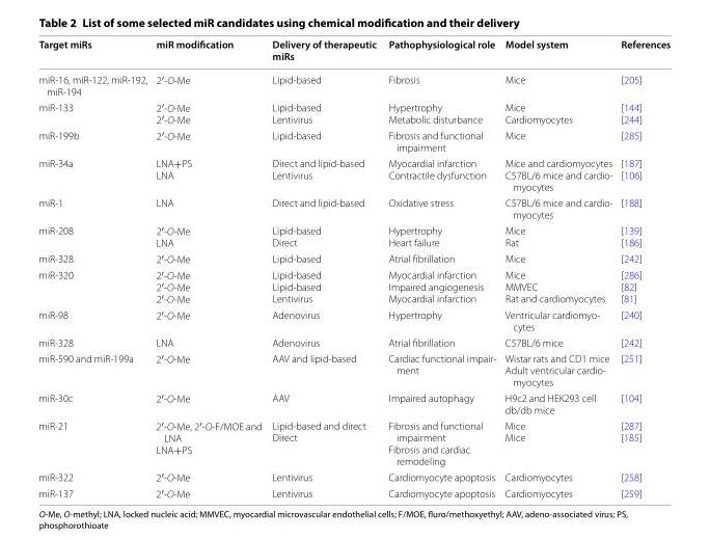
<table><thead><tr><td>Target miRs</td><td>miR modification</td><td>Delivery of therapeutic miRs</td><td>Pathophysiological role</td><td>Model system</td><td>References</td></tr></thead><tbody><tr><td>miR-16, miR-122, miR-192, miR-194</td><td>2′-O-Me</td><td>Lipid-based</td><td>Fibrosis</td><td>Mice</td><td>[205]</td></tr><tr><td>miR-133</td><td>2′-O-Me 2′-O-Me</td><td>Lipid-based Lentivirus</td><td>Hypertrophy Metabolic disturbance</td><td>Mice Cardiomyocytes</td><td>[144] [244]</td></tr><tr><td>miR-199b</td><td>2′-O-Me</td><td>Lipid-based</td><td>Fibrosis and functional impairment</td><td>Mice</td><td>[285]</td></tr><tr><td>miR-34a</td><td>LNA+PS LNA</td><td>Direct and lipid-based Lentivirus</td><td>Myocardial infarction Contractile dysfunction</td><td>Mice and cardiomyocytes C57BL/6 mice and cardio- myocytes</td><td>[187] [106]</td></tr><tr><td>miR-1</td><td>LNA</td><td>Direct and lipid-based</td><td>Oxidative stress</td><td>C57BL/6 mice and cardio- myocytes</td><td>[188]</td></tr><tr><td>miR-208</td><td>2′-O-Me LNA</td><td>Lipid-based Direct</td><td>Hypertrophy Heart failure</td><td>Mice Rat</td><td>[139] [186]</td></tr><tr><td>miR-328</td><td>2′-O-Me</td><td>Lipid-based</td><td>Atrial fibrillation</td><td>Mice</td><td>[242]</td></tr><tr><td>miR-320</td><td>2′-O-Me 2′-O-Me 2′-O-Me</td><td>Lipid-based Lipid-based Lentivirus</td><td>Myocardial infarction Impaired angiogenesis Myocardial infarction</td><td>Mice MMVEC Rat and cardiomyocytes</td><td>[286] [82] [81]</td></tr><tr><td>miR-98</td><td>2′-O-Me</td><td>Adenovirus</td><td>Hypertrophy</td><td>Ventricular cardiomyo- cytes</td><td>[240]</td></tr><tr><td>miR-328</td><td>LNA</td><td>Adenovirus</td><td>Atrial fibrillation</td><td>C57BL/6 mice</td><td>[242]</td></tr><tr><td>miR-590 and miR-199a</td><td>2′-O-Me</td><td>AAV and lipid-based</td><td>Cardiac functional impair- ment</td><td>Wistar rats and CD1 mice Adult ventricular cardio- myocytes</td><td>[251]</td></tr><tr><td>miR-30c</td><td>2′-O-Me</td><td>AAV</td><td>Impaired autophagy</td><td>H9c2 and HEK293 cell db/db mice</td><td>[104]</td></tr><tr><td>miR-21</td><td>2′-O-Me, 2′-O-F/MOE and LNA LNA+PS</td><td>Lipid-based and direct Direct</td><td>Fibrosis and functional impairment Fibrosis and cardiac remodeling</td><td>Mice Mice</td><td>[287] [185]</td></tr><tr><td>miR-322</td><td>2′-O-Me</td><td>Lentivirus</td><td>Cardiomyocyte apoptosis</td><td>Cardiomyocytes</td><td>[258]</td></tr><tr><td>miR-137</td><td>2′-O-Me</td><td>Lentivirus</td><td>Cardiomyocyte apoptosis</td><td>Cardiomyocytes</td><td>[259]</td></tr></tbody></table>